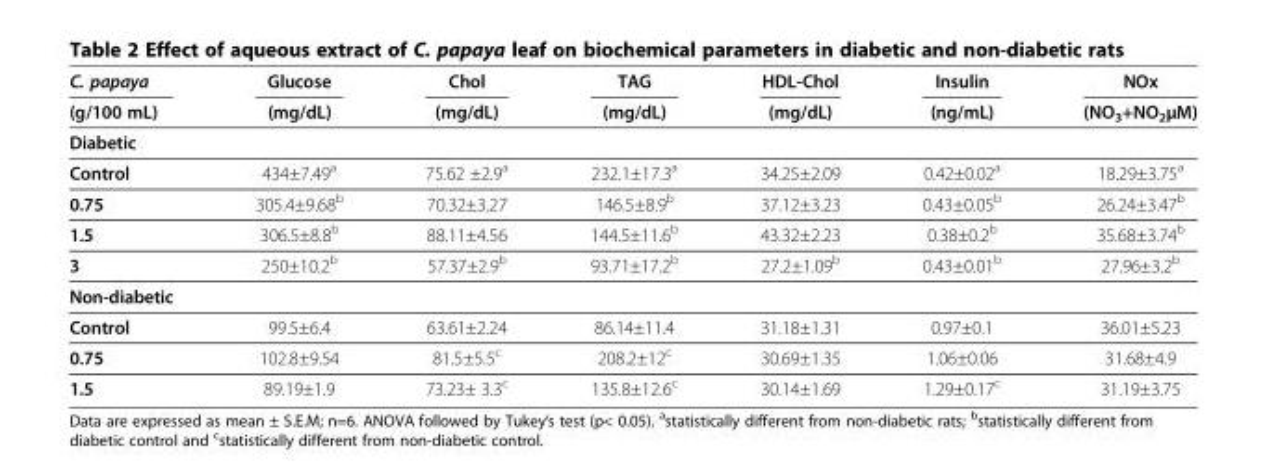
<table><thead><tr><td rowspan="2">C. papaya (g/100 mL)</td><td rowspan="2">Glucose (mg/dL)</td><td rowspan="2">Chol (mg/dL)</td><td rowspan="2">TAG (mg/dL)</td><td rowspan="2">HDL-Chol (mg/dL)</td><td rowspan="2">Insulin (ng/mL)</td><td rowspan="2">NOx (NO<sub>3</sub>+NO<sub>2</sub>μM)</td></tr><tr></tr></thead><tbody><tr><td colspan="7">Diabetic</td></tr><tr><td>Control</td><td>434±7.49<sup>a</sup></td><td>75.62 ±2.9<sup>a</sup></td><td>232.1±17.3<sup>a</sup></td><td>34.25±2.09</td><td>0.42±0.02<sup>a</sup></td><td>18.29±3.75<sup>a</sup></td></tr><tr><td>0.75</td><td>305.4±9.68<sup>b</sup></td><td>70.32±3.27</td><td>146.5±8.9<sup>b</sup></td><td>37.12±3.23</td><td>0.43±0.05<sup>b</sup></td><td>26.24±3.47<sup>b</sup></td></tr><tr><td>1.5</td><td>306.5±8.8<sup>b</sup></td><td>88.11±4.56</td><td>144.5±11.6<sup>b</sup></td><td>43.32±2.23</td><td>0.38±0.2<sup>b</sup></td><td>35.68±3.74<sup>b</sup></td></tr><tr><td>3</td><td>250±10.2<sup>b</sup></td><td>57.37±2.9<sup>b</sup></td><td>93.71±17.2<sup>b</sup></td><td>27.2±1.09<sup>b</sup></td><td>0.43±0.01<sup>b</sup></td><td>27.96±3.2<sup>b</sup></td></tr><tr><td colspan="7">Non-diabetic</td></tr><tr><td>Control</td><td>99.5±6.4</td><td>63.61±2.24</td><td>86.14±11.4</td><td>31.18±1.31</td><td>0.97±0.1</td><td>36.01±5.23</td></tr><tr><td>0.75</td><td>102.8±9.54</td><td>81.5±5.5<sup>c</sup></td><td>208.2±12<sup>c</sup></td><td>30.69±1.35</td><td>1.06±0.06</td><td>31.68±4.9</td></tr><tr><td>1.5</td><td>89.19±1.9</td><td>73.23± 3.3<sup>c</sup></td><td>135.8±12.6<sup>c</sup></td><td>30.14±1.69</td><td>1.29±0.17<sup>c</sup></td><td>31.19±3.75</td></tr></tbody></table>